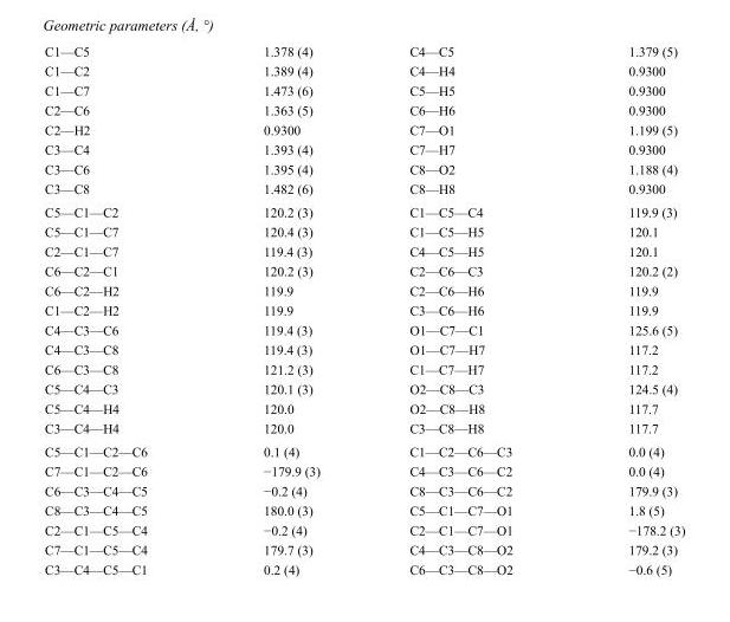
<table><tbody><tr><td>C1—C5</td><td>1.378 (4)</td><td>C4—C5</td><td>1.379 (5)</td></tr><tr><td>C1—C2</td><td>1.389 (4)</td><td>C4—H4</td><td>0.9300</td></tr><tr><td>C1—C7</td><td>1.473 (6)</td><td>C5—H5</td><td>0.9300</td></tr><tr><td>C2—C6</td><td>1.363 (5)</td><td>C6—H6</td><td>0.9300</td></tr><tr><td>C2—H2</td><td>0.9300</td><td>C7—O1</td><td>1.199 (5)</td></tr><tr><td>C3—C4</td><td>1.393 (4)</td><td>C7—H7</td><td>0.9300</td></tr><tr><td>C3—C6</td><td>1.395 (4)</td><td>C8—O2</td><td>1.188 (4)</td></tr><tr><td>C3—C8</td><td>1.482 (6)</td><td>C8—H8</td><td>0.9300</td></tr><tr><td>C5—C1—C2</td><td>120.2 (3)</td><td>C1—C5—C4</td><td>119.9 (3)</td></tr><tr><td>C5—C1—C7</td><td>120.4 (3)</td><td>C1—C5—H5</td><td>120.1</td></tr><tr><td>C2—C1—C7</td><td>119.4 (3)</td><td>C4—C5—H5</td><td>120.1</td></tr><tr><td>C6—C2—C1</td><td>120.2 (3)</td><td>C2—C6—C3</td><td>120.2 (2)</td></tr><tr><td>C6—C2—H2</td><td>119.9</td><td>C2—C6—H6</td><td>119.9</td></tr><tr><td>C1—C2—H2</td><td>119.9</td><td>C3—C6—H6</td><td>119.9</td></tr><tr><td>C4—C3—C6</td><td>119.4 (3)</td><td>O1—C7—C1</td><td>125.6 (5)</td></tr><tr><td>C4—C3—C8</td><td>119.4 (3)</td><td>O1—C7—H7</td><td>117.2</td></tr><tr><td>C6—C3—C8</td><td>121.2 (3)</td><td>C1—C7—H7</td><td>117.2</td></tr><tr><td>C5—C4—C3</td><td>120.1 (3)</td><td>O2—C8—C3</td><td>124.5 (4)</td></tr><tr><td>C5—C4—H4</td><td>120.0</td><td>O2—C8—H8</td><td>117.7</td></tr><tr><td>C3—C4—H4</td><td>120.0</td><td>C3—C8—H8</td><td>117.7</td></tr><tr><td>C5—C1—C2—C6</td><td>0.1 (4)</td><td>C1—C2—C6—C3</td><td>0.0 (4)</td></tr><tr><td>C7—C1—C2—C6</td><td>−179.9 (3)</td><td>C4—C3—C6—C2</td><td>0.0 (4)</td></tr><tr><td>C6—C3—C4—C5</td><td>−0.2 (4)</td><td>C8—C3—C6—C2</td><td>179.9 (3)</td></tr><tr><td>C8—C3—C4—C5</td><td>180.0 (3)</td><td>C5—C1—C7—O1</td><td>1.8 (5)</td></tr><tr><td>C2—C1—C5—C4</td><td>−0.2 (4)</td><td>C2—C1—C7—O1</td><td>−178.2 (3)</td></tr><tr><td>C7—C1—C5—C4</td><td>179.7 (3)</td><td>C4—C3—C8—O2</td><td>179.2 (3)</td></tr><tr><td>C3—C4—C5—C1</td><td>0.2 (4)</td><td>C6—C3—C8—O2</td><td>−0.6 (5)</td></tr></tbody></table>